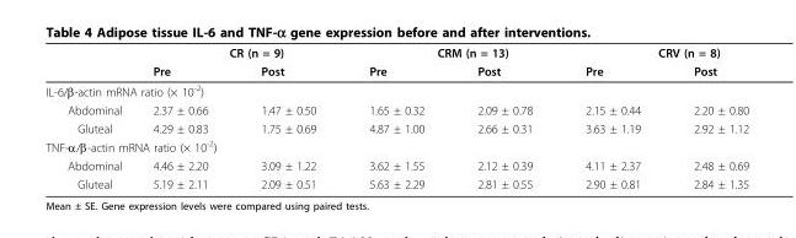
<table><thead><tr><td rowspan="2"></td><td colspan="2">CR (n = 9)</td><td colspan="2">CRM (n = 13)</td><td colspan="2">CRV (n = 8)</td></tr><tr><td>Pre</td><td>Post</td><td>Pre</td><td>Post</td><td>Pre</td><td>Post</td></tr></thead><tbody><tr><td colspan="7">IL-6/β-actin mRNA ratio (× 10<sup>-2</sup>)</td></tr><tr><td>Abdominal</td><td>2.37 ± 0.66</td><td>1.47 ± 0.50</td><td>1.65 ± 0.32</td><td>2.09 ± 0.78</td><td>2.15 ± 0.44</td><td>2.20 ± 0.80</td></tr><tr><td>Gluteal</td><td>4.29 ± 0.83</td><td>1.75 ± 0.69</td><td>4.87 ± 1.00</td><td>2.66 ± 0.31</td><td>3.63 ± 1.19</td><td>2.92 ± 1.12</td></tr><tr><td colspan="7">TNF-α/β-actin mRNA ratio (× 10<sup>-2</sup>)</td></tr><tr><td>Abdominal</td><td>4.46 ± 2.20</td><td>3.09 ± 1.22</td><td>3.62 ± 1.55</td><td>2.12 ± 0.39</td><td>4.11 ± 2.37</td><td>2.48 ± 0.69</td></tr><tr><td>Gluteal</td><td>5.19 ± 2.11</td><td>2.09 ± 0.51</td><td>5.63 ± 2.29</td><td>2.81 ± 0.55</td><td>2.90 ± 0.81</td><td>2.84 ± 1.35</td></tr></tbody></table>